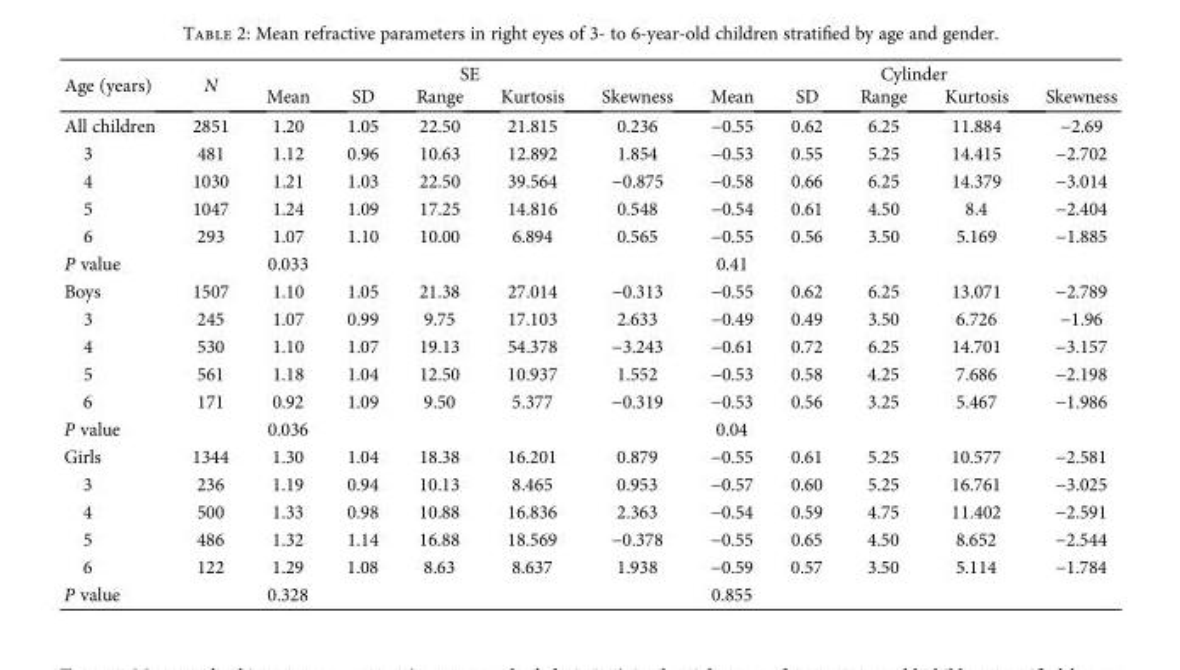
<table><thead><tr><td rowspan="2">Age (years)</td><td rowspan="2">N</td><td colspan="5">SE</td><td colspan="5">Cylinder</td></tr><tr><td>Mean</td><td>SD</td><td>Range</td><td>Kurtosis</td><td>Skewness</td><td>Mean</td><td>SD</td><td>Range</td><td>Kurtosis</td><td>Skewness</td></tr></thead><tbody><tr><td>All children</td><td>2851</td><td>1.20</td><td>1.05</td><td>22.50</td><td>21.815</td><td>0.236</td><td>−0.55</td><td>0.62</td><td>6.25</td><td>11.884</td><td>−2.69</td></tr><tr><td>3</td><td>481</td><td>1.12</td><td>0.96</td><td>10.63</td><td>12.892</td><td>1.854</td><td>−0.53</td><td>0.55</td><td>5.25</td><td>14.415</td><td>−2.702</td></tr><tr><td>4</td><td>1030</td><td>1.21</td><td>1.03</td><td>22.50</td><td>39.564</td><td>−0.875</td><td>−0.58</td><td>0.66</td><td>6.25</td><td>14.379</td><td>−3.014</td></tr><tr><td>5</td><td>1047</td><td>1.24</td><td>1.09</td><td>17.25</td><td>14.816</td><td>0.548</td><td>−0.54</td><td>0.61</td><td>4.50</td><td>8.4</td><td>−2.404</td></tr><tr><td>6</td><td>293</td><td>1.07</td><td>1.10</td><td>10.00</td><td>6.894</td><td>0.565</td><td>−0.55</td><td>0.56</td><td>3.50</td><td>5.169</td><td>−1.885</td></tr><tr><td>P value</td><td></td><td>0.033</td><td></td><td></td><td></td><td></td><td>0.41</td><td></td><td></td><td></td><td></td></tr><tr><td>Boys</td><td>1507</td><td>1.10</td><td>1.05</td><td>21.38</td><td>27.014</td><td>−0.313</td><td>−0.55</td><td>0.62</td><td>6.25</td><td>13.071</td><td>−2.789</td></tr><tr><td>3</td><td>245</td><td>1.07</td><td>0.99</td><td>9.75</td><td>17.103</td><td>2.633</td><td>−0.49</td><td>0.49</td><td>3.50</td><td>6.726</td><td>−1.96</td></tr><tr><td>4</td><td>530</td><td>1.10</td><td>1.07</td><td>19.13</td><td>54.378</td><td>−3.243</td><td>−0.61</td><td>0.72</td><td>6.25</td><td>14.701</td><td>−3.157</td></tr><tr><td>5</td><td>561</td><td>1.18</td><td>1.04</td><td>12.50</td><td>10.937</td><td>1.552</td><td>−0.53</td><td>0.58</td><td>4.25</td><td>7.686</td><td>−2.198</td></tr><tr><td>6</td><td>171</td><td>0.92</td><td>1.09</td><td>9.50</td><td>5.377</td><td>−0.319</td><td>−0.53</td><td>0.56</td><td>3.25</td><td>5.467</td><td>−1.986</td></tr><tr><td>P value</td><td></td><td>0.036</td><td></td><td></td><td></td><td></td><td>0.04</td><td></td><td></td><td></td><td></td></tr><tr><td>Girls</td><td>1344</td><td>1.30</td><td>1.04</td><td>18.38</td><td>16.201</td><td>0.879</td><td>−0.55</td><td>0.61</td><td>5.25</td><td>10.577</td><td>−2.581</td></tr><tr><td>3</td><td>236</td><td>1.19</td><td>0.94</td><td>10.13</td><td>8.465</td><td>0.953</td><td>−0.57</td><td>0.60</td><td>5.25</td><td>16.761</td><td>−3.025</td></tr><tr><td>4</td><td>500</td><td>1.33</td><td>0.98</td><td>10.88</td><td>16.836</td><td>2.363</td><td>−0.54</td><td>0.59</td><td>4.75</td><td>11.402</td><td>−2.591</td></tr><tr><td>5</td><td>486</td><td>1.32</td><td>1.14</td><td>16.88</td><td>18.569</td><td>−0.378</td><td>−0.55</td><td>0.65</td><td>4.50</td><td>8.652</td><td>−2.544</td></tr><tr><td>6</td><td>122</td><td>1.29</td><td>1.08</td><td>8.63</td><td>8.637</td><td>1.938</td><td>−0.59</td><td>0.57</td><td>3.50</td><td>5.114</td><td>−1.784</td></tr><tr><td>P value</td><td></td><td>0.328</td><td></td><td></td><td></td><td></td><td>0.855</td><td></td><td></td><td></td><td></td></tr></tbody></table>